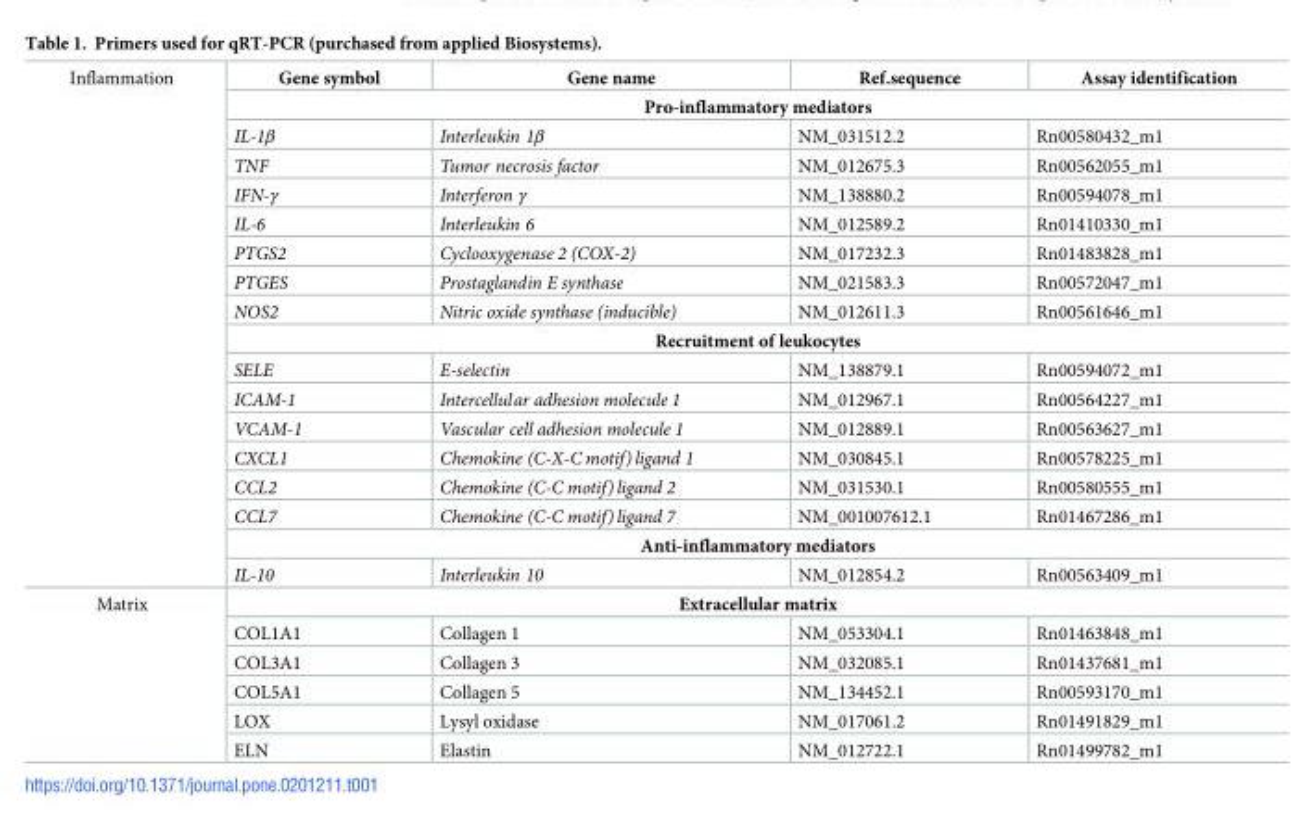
<table><tbody><tr><td rowspan="18">Inflammation</td><td>Gene symbol</td><td>Gene name</td><td>Ref.sequence</td><td>Assay identification</td></tr><tr><td colspan="4">Pro-inflammatory mediators</td></tr><tr><td>IL-1β</td><td>Interleukin 1β</td><td>NM_031512.2</td><td>Rn00580432_m1</td></tr><tr><td>TNF</td><td>Tumor necrosis factor</td><td>NM_012675.3</td><td>Rn00562055_m1</td></tr><tr><td>IFN-γ</td><td>Interferon γ</td><td>NM_138880.2</td><td>Rn00594078_m1</td></tr><tr><td>IL-6</td><td>Interleukin 6</td><td>NM_012589.2</td><td>Rn01410330_m1</td></tr><tr><td>PTGS2</td><td>Cyclooxygenase 2 (COX-2)</td><td>NM_017232.3</td><td>Rn01483828_m1</td></tr><tr><td>PTGES</td><td>Prostaglandin E synthase</td><td>NM_021583.3</td><td>Rn00572047_m1</td></tr><tr><td>NOS2</td><td>Nitric oxide synthase (inducible)</td><td>NM_012611.3</td><td>Rn00561646_m1</td></tr><tr><td colspan="4">Recruitment of leukocytes</td></tr><tr><td>SELE</td><td>E-selectin</td><td>NM_138879.1</td><td>Rn00594072_m1</td></tr><tr><td>ICAM-1</td><td>Intercellular adhesion molecule 1</td><td>NM_012967.1</td><td>Rn00564227_m1</td></tr><tr><td>VCAM-1</td><td>Vascular cell adhesion molecule 1</td><td>NM_012889.1</td><td>Rn00563627_m1</td></tr><tr><td>CXCL1</td><td>Chemokine (C-X-C motif) ligand 1</td><td>NM_030845.1</td><td>Rn00578225_m1</td></tr><tr><td>CCL2</td><td>Chemokine (C-C motif) ligand 2</td><td>NM_031530.1</td><td>Rn00580555_m1</td></tr><tr><td>CCL7</td><td>Chemokine (C-C motif) ligand 7</td><td>NM_001007612.1</td><td>Rn01467286_m1</td></tr><tr><td colspan="4">Anti-inflammatory mediators</td></tr><tr><td>IL-10</td><td>Interleukin 10</td><td>NM_012854.2</td><td>Rn00563409_m1</td></tr><tr><td rowspan="6">Matrix</td><td colspan="4">Extracellular matrix</td></tr><tr><td>COL1A1</td><td>Collagen 1</td><td>NM_053304.1</td><td>Rn01463848_m1</td></tr><tr><td>COL3A1</td><td>Collagen 3</td><td>NM_032085.1</td><td>Rn01437681_m1</td></tr><tr><td>COL5A1</td><td>Collagen 5</td><td>NM_134452.1</td><td>Rn00593170_m1</td></tr><tr><td>LOX</td><td>Lysyl oxidase</td><td>NM_017061.2</td><td>Rn01491829_m1</td></tr><tr><td>ELN</td><td>Elastin</td><td>NM_012722.1</td><td>Rn01499782_m1</td></tr></tbody></table>